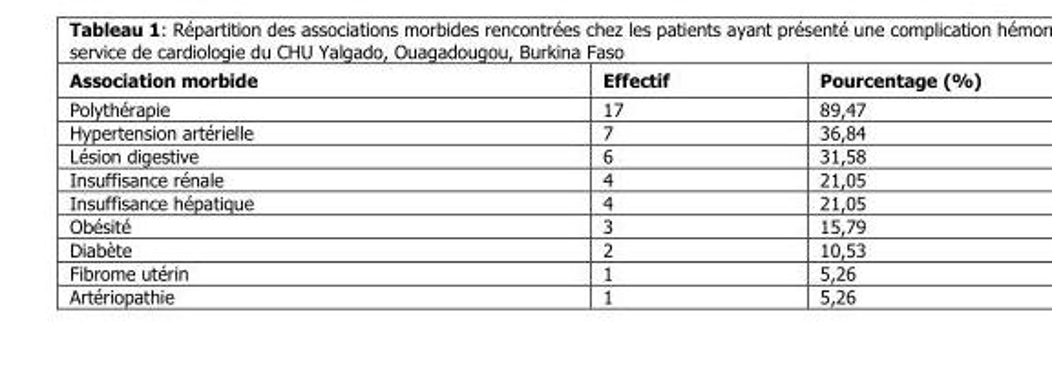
<table><thead><tr><td>Association morbide</td><td>Effectif</td><td>Pourcentage (%)</td></tr></thead><tbody><tr><td>Polythérapie</td><td>17</td><td>89,47</td></tr><tr><td>Hypertension artérielle</td><td>7</td><td>36,84</td></tr><tr><td>Lésion digestive</td><td>6</td><td>31,58</td></tr><tr><td>Insuffisance rénale</td><td>4</td><td>21,05</td></tr><tr><td>Insuffisance hépatique</td><td>4</td><td>21,05</td></tr><tr><td>Obésité</td><td>3</td><td>15,79</td></tr><tr><td>Diabète</td><td>2</td><td>10,53</td></tr><tr><td>Fibrome utérin</td><td>1</td><td>5,26</td></tr><tr><td>Artériopathie</td><td>1</td><td>5,26</td></tr></tbody></table>